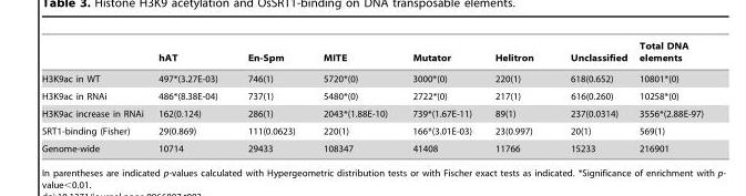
<table><thead><tr><td></td><td>hAT</td><td>En-Spm</td><td>MITE</td><td>Mutator</td><td>Helitron</td><td>Unclassified</td><td>Total DNA elements</td></tr></thead><tbody><tr><td>H3K9ac in WT</td><td>497*(3.27E-03)</td><td>746(1)</td><td>5720*(0)</td><td>3000*(0)</td><td>220(1)</td><td>618(0.652)</td><td>10801*(0)</td></tr><tr><td>H3K9ac in RNAi</td><td>486*(8.38E-04)</td><td>737(1)</td><td>5480*(0)</td><td>2722*(0)</td><td>217(1)</td><td>616(0.260)</td><td>10258*(0)</td></tr><tr><td>H3K9ac increase in RNAi</td><td>162(0.124)</td><td>286(1)</td><td>2043*(1.88E-10)</td><td>739*(1.67E-11)</td><td>89(1)</td><td>237(0.0314)</td><td>3556*(2.88E-97)</td></tr><tr><td>SRT1-binding (Fisher)</td><td>29(0.869)</td><td>111(0.0623)</td><td>220(1)</td><td>166*(3.01E-03)</td><td>23(0.997)</td><td>20(1)</td><td>569(1)</td></tr><tr><td>Genome-wide</td><td>10714</td><td>29433</td><td>108347</td><td>41408</td><td>11766</td><td>15233</td><td>216901</td></tr></tbody></table>